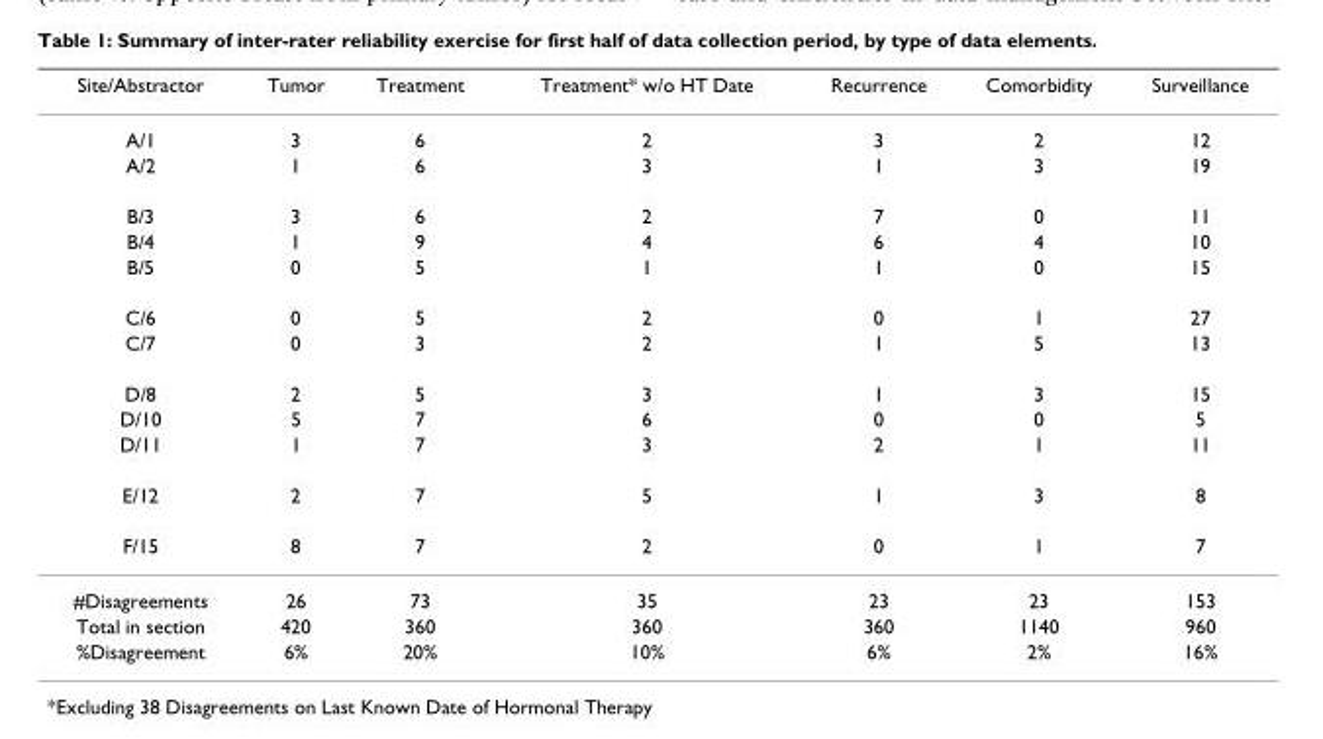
<table><thead><tr><td>Site/Abstractor</td><td>Tumor</td><td>Treatment</td><td>Treatment* w/o HT Date</td><td>Recurrence</td><td>Comorbidity</td><td>Surveillance</td></tr></thead><tbody><tr><td>A/1</td><td>3</td><td>6</td><td>2</td><td>3</td><td>2</td><td>12</td></tr><tr><td>A/2</td><td>1</td><td>6</td><td>3</td><td>1</td><td>3</td><td>19</td></tr><tr><td>B/3</td><td>3</td><td>6</td><td>2</td><td>7</td><td>0</td><td>11</td></tr><tr><td>B/4</td><td>1</td><td>9</td><td>4</td><td>6</td><td>4</td><td>10</td></tr><tr><td>B/5</td><td>0</td><td>5</td><td>1</td><td>1</td><td>0</td><td>15</td></tr><tr><td>C/6</td><td>0</td><td>5</td><td>2</td><td>0</td><td>1</td><td>27</td></tr><tr><td>C/7</td><td>0</td><td>3</td><td>2</td><td>1</td><td>5</td><td>13</td></tr><tr><td>D/8</td><td>2</td><td>5</td><td>3</td><td>1</td><td>3</td><td>15</td></tr><tr><td>D/10</td><td>5</td><td>7</td><td>6</td><td>0</td><td>0</td><td>5</td></tr><tr><td>D/11</td><td>1</td><td>7</td><td>3</td><td>2</td><td>1</td><td>11</td></tr><tr><td>E/12</td><td>2</td><td>7</td><td>5</td><td>1</td><td>3</td><td>8</td></tr><tr><td>F/15</td><td>8</td><td>7</td><td>2</td><td>0</td><td>1</td><td>7</td></tr><tr><td>#Disagreements</td><td>26</td><td>73</td><td>35</td><td>23</td><td>23</td><td>153</td></tr><tr><td>Total in section</td><td>420</td><td>360</td><td>360</td><td>360</td><td>1140</td><td>960</td></tr><tr><td>%Disagreement</td><td>6%</td><td>20%</td><td>10%</td><td>6%</td><td>2%</td><td>16%</td></tr></tbody></table>